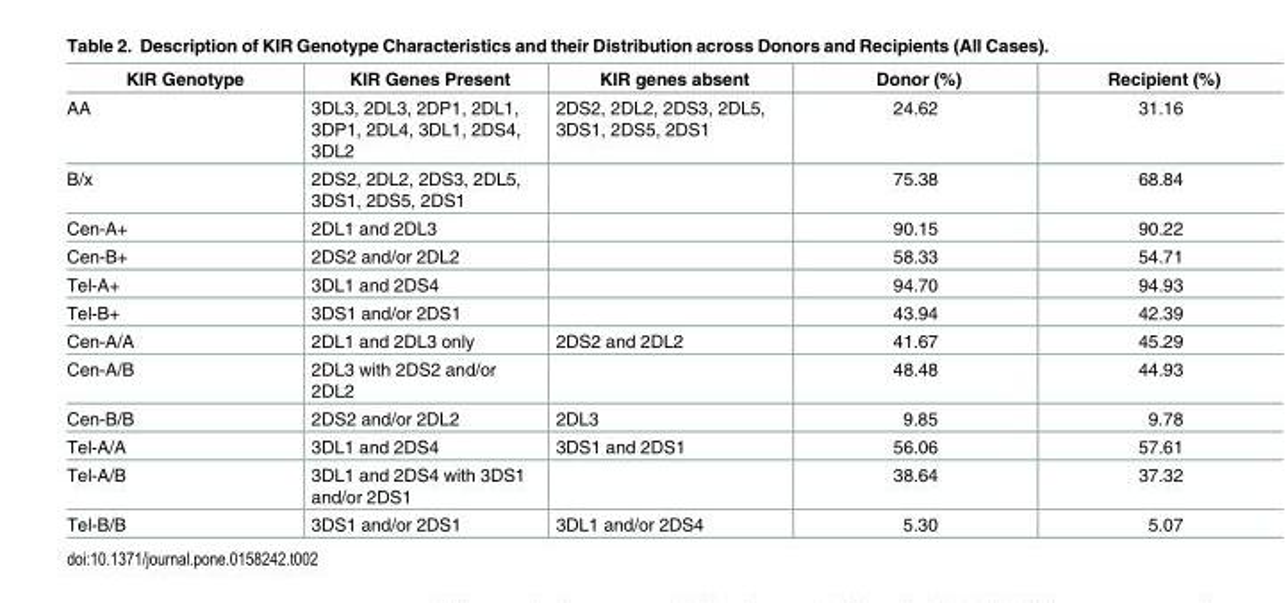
<table><thead><tr><td>KIR Genotype</td><td>KIR Genes Present</td><td>KIR genes absent</td><td>Donor (%)</td><td>Recipient (%)</td></tr></thead><tbody><tr><td>AA</td><td>3DL3, 2DL3, 2DP1, 2DL1, 3DP1, 2DL4, 3DL1, 2DS4, 3DL2</td><td>2DS2, 2DL2, 2DS3, 2DL5, 3DS1, 2DS5, 2DS1</td><td>24.62</td><td>31.16</td></tr><tr><td>B/x</td><td>2DS2, 2DL2, 2DS3, 2DL5, 3DS1, 2DS5, 2DS1</td><td></td><td>75.38</td><td>68.84</td></tr><tr><td>Cen-A+</td><td>2DL1 and 2DL3</td><td></td><td>90.15</td><td>90.22</td></tr><tr><td>Cen-B+</td><td>2DS2 and/or 2DL2</td><td></td><td>58.33</td><td>54.71</td></tr><tr><td>Tel-A+</td><td>3DL1 and 2DS4</td><td></td><td>94.70</td><td>94.93</td></tr><tr><td>Tel-B+</td><td>3DS1 and/or 2DS1</td><td></td><td>43.94</td><td>42.39</td></tr><tr><td>Cen-A/A</td><td>2DL1 and 2DL3 only</td><td>2DS2 and 2DL2</td><td>41.67</td><td>45.29</td></tr><tr><td>Cen-A/B</td><td>2DL3 with 2DS2 and/or 2DL2</td><td></td><td>48.48</td><td>44.93</td></tr><tr><td>Cen-B/B</td><td>2DS2 and/or 2DL2</td><td>2DL3</td><td>9.85</td><td>9.78</td></tr><tr><td>Tel-A/A</td><td>3DL1 and 2DS4</td><td>3DS1 and 2DS1</td><td>56.06</td><td>57.61</td></tr><tr><td>Tel-A/B</td><td>3DL1 and 2DS4 with 3DS1 and/or 2DS1</td><td></td><td>38.64</td><td>37.32</td></tr><tr><td>Tel-B/B</td><td>3DS1 and/or 2DS1</td><td>3DL1 and/or 2DS4</td><td>5.30</td><td>5.07</td></tr></tbody></table>